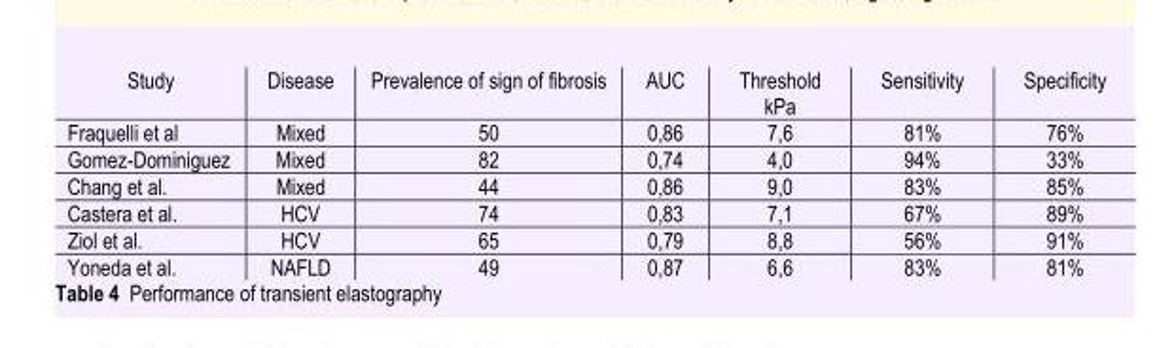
<table><thead><tr><td>Study</td><td>Disease</td><td>Prevalence of sign of fibrosis</td><td>AUC</td><td>Threshold kPa</td><td>Sensitivity</td><td>Specificity</td></tr></thead><tbody><tr><td>Fraquelli et al</td><td>Mixed</td><td>50</td><td>0,86</td><td>7,6</td><td>81%</td><td>76%</td></tr><tr><td>Gomez-Dominiguez</td><td>Mixed</td><td>82</td><td>0,74</td><td>4,0</td><td>94%</td><td>33%</td></tr><tr><td>Chang et al.</td><td>Mixed</td><td>44</td><td>0,86</td><td>9,0</td><td>83%</td><td>85%</td></tr><tr><td>Castera et al.</td><td>HCV</td><td>74</td><td>0,83</td><td>7,1</td><td>67%</td><td>89%</td></tr><tr><td>Ziol et al.</td><td>HCV</td><td>65</td><td>0,79</td><td>8,8</td><td>56%</td><td>91%</td></tr><tr><td>Yoneda et al.</td><td>NAFLD</td><td>49</td><td>0,87</td><td>6,6</td><td>83%</td><td>81%</td></tr></tbody></table>